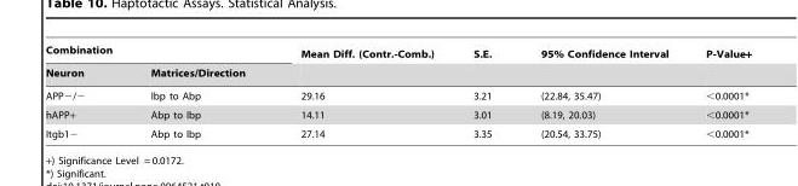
<table><thead><tr><td colspan="2">Combination</td><td rowspan="2">Mean Diff. (Contr.-Comb.)</td><td rowspan="2">S.E.</td><td rowspan="2">95% Confidence Interval</td><td rowspan="2">P-Value+</td></tr><tr><td>Neuron</td><td>Matrices/Direction</td></tr></thead><tbody><tr><td>APP−/−</td><td>Ibp to Abp</td><td>29.16</td><td>3.21</td><td>(22.84, 35.47)</td><td>&lt;0.0001*</td></tr><tr><td>hAPP+</td><td>Abp to Ibp</td><td>14.11</td><td>3.01</td><td>(8.19, 20.03)</td><td>&lt;0.0001*</td></tr><tr><td>Itgb1−</td><td>Abp to Ibp</td><td>27.14</td><td>3.35</td><td>(20.54, 33.75)</td><td>&lt;0.0001*</td></tr></tbody></table>